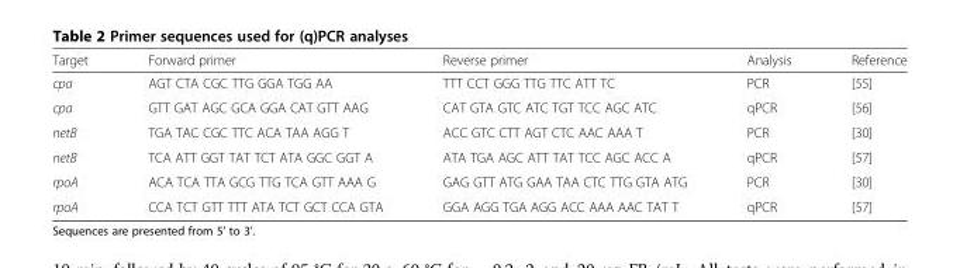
<table><thead><tr><td>Target</td><td>Forward primer</td><td>Reverse primer</td><td>Analysis</td><td>Reference</td></tr></thead><tbody><tr><td>cpa</td><td>AGT CTA CGC TTG GGA TGG AA</td><td>TTT CCT GGG TTG TTC ATT TC</td><td>PCR</td><td>[55]</td></tr><tr><td>cpa</td><td>GTT GAT AGC GCA GGA CAT GTT AAG</td><td>CAT GTA GTC ATC TGT TCC AGC ATC</td><td>qPCR</td><td>[56]</td></tr><tr><td>netB</td><td>TGA TAC CGC TTC ACA TAA AGG T</td><td>ACC GTC CTT AGT CTC AAC AAA T</td><td>PCR</td><td>[30]</td></tr><tr><td>netB</td><td>TCA ATT GGT TAT TCT ATA GGC GGT A</td><td>ATA TGA AGC ATT TAT TCC AGC ACC A</td><td>qPCR</td><td>[57]</td></tr><tr><td>rpoA</td><td>ACA TCA TTA GCG TTG TCA GTT AAA G</td><td>GAG GTT ATG GAA TAA CTC TTG GTA ATG</td><td>PCR</td><td>[30]</td></tr><tr><td>rpoA</td><td>CCA TCT GTT TTT ATA TCT GCT CCA GTA</td><td>GGA AGG TGA AGG ACC AAA AAC TAT T</td><td>qPCR</td><td>[57]</td></tr></tbody></table>